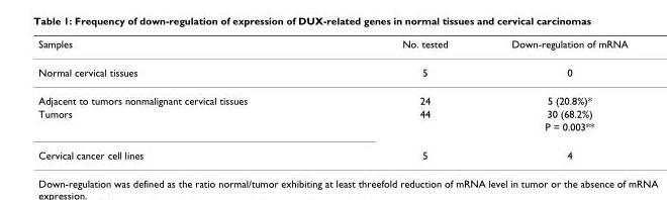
<table><thead><tr><td>Samples</td><td>No. tested</td><td>Down-regulation of mRNA</td></tr></thead><tbody><tr><td>Normal cervical tissues</td><td>5</td><td>0</td></tr><tr><td>Adjacent to tumors nonmalignant cervical tissues</td><td>24</td><td>5 (20.8%)*</td></tr><tr><td rowspan="2">Tumors</td><td>44</td><td>30 (68.2%)</td></tr><tr><td></td><td>P = 0.003**</td></tr><tr><td>Cervical cancer cell lines</td><td>5</td><td>4</td></tr></tbody></table>